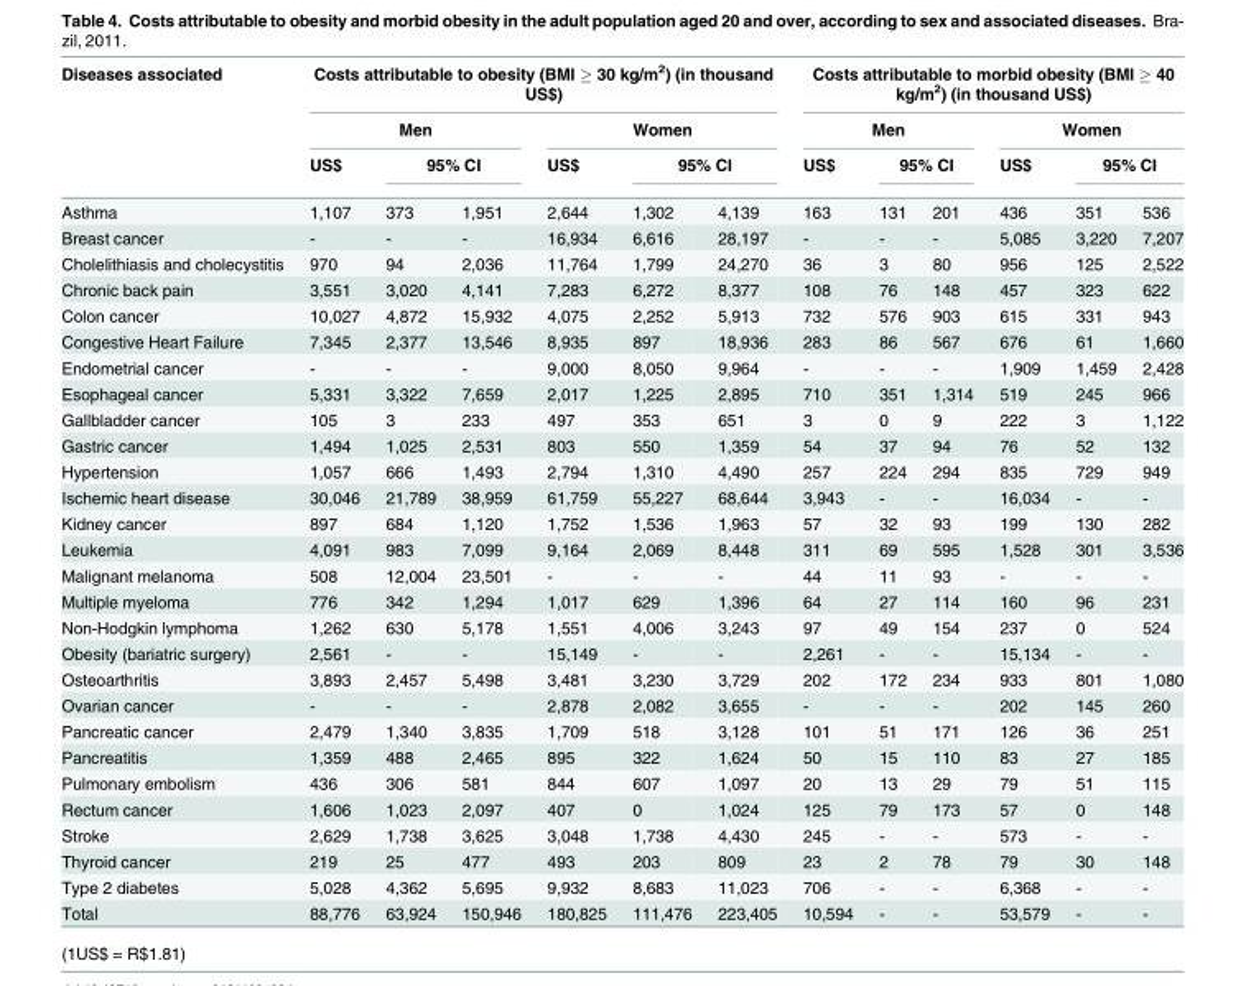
<table><thead><tr><td rowspan="4">Diseases associated Asthma</td><td colspan="6">Costs attributable to obesity (BMI ≥ 30 kg/m<sup>2</sup>) (in thousand US$)</td><td colspan="6">Costs attributable to morbid obesity (BMI ≥ 40 kg/m<sup>2</sup>) (in thousand US$)</td></tr><tr><td colspan="3">Men</td><td colspan="3">Women</td><td colspan="3">Men</td><td colspan="3">Women</td></tr><tr><td rowspan="2">US$ 1,107</td><td colspan="2">95% CI</td><td rowspan="2">US$ 2,644</td><td colspan="2">95% CI</td><td rowspan="2">US$ 163</td><td colspan="2">95% CI</td><td rowspan="2">US$ 436</td><td colspan="2">95% CI</td></tr><tr><td>373</td><td>1,951</td><td>1,302</td><td>4,139</td><td>131</td><td>201</td><td>351</td><td>536</td></tr></thead><tbody><tr><td>Breast cancer</td><td>-</td><td>-</td><td>-</td><td>16,934</td><td>6,616</td><td>28,197</td><td>-</td><td>-</td><td>-</td><td>5,085</td><td>3,220</td><td>7,207</td></tr><tr><td>Cholelithiasis and cholecystitis</td><td>970</td><td>94</td><td>2,036</td><td>11,764</td><td>1,799</td><td>24,270</td><td>36</td><td>3</td><td>80</td><td>956</td><td>125</td><td>2,522</td></tr><tr><td>Chronic back pain</td><td>3,551</td><td>3,020</td><td>4,141</td><td>7,283</td><td>6,272</td><td>8,377</td><td>108</td><td>76</td><td>148</td><td>457</td><td>323</td><td>622</td></tr><tr><td>Colon cancer</td><td>10,027</td><td>4,872</td><td>15,932</td><td>4,075</td><td>2,252</td><td>5,913</td><td>732</td><td>576</td><td>903</td><td>615</td><td>331</td><td>943</td></tr><tr><td>Congestive Heart Failure</td><td>7,345</td><td>2,377</td><td>13,546</td><td>8,935</td><td>897</td><td>18,936</td><td>283</td><td>86</td><td>567</td><td>676</td><td>61</td><td>1,660</td></tr><tr><td>Endometrial cancer</td><td>-</td><td>-</td><td>-</td><td>9,000</td><td>8,050</td><td>9,964</td><td>-</td><td>-</td><td>-</td><td>1,909</td><td>1,459</td><td>2,428</td></tr><tr><td>Esophageal cancer</td><td>5,331</td><td>3,322</td><td>7,659</td><td>2,017</td><td>1,225</td><td>2,895</td><td>710</td><td>351</td><td>1,314</td><td>519</td><td>245</td><td>966</td></tr><tr><td>Gallbladder cancer</td><td>105</td><td>3</td><td>233</td><td>497</td><td>353</td><td>651</td><td>3</td><td>0</td><td>9</td><td>222</td><td>3</td><td>1,122</td></tr><tr><td>Gastric cancer</td><td>1,494</td><td>1,025</td><td>2,531</td><td>803</td><td>550</td><td>1,359</td><td>54</td><td>37</td><td>94</td><td>76</td><td>52</td><td>132</td></tr><tr><td>Hypertension</td><td>1,057</td><td>666</td><td>1,493</td><td>2,794</td><td>1,310</td><td>4,490</td><td>257</td><td>224</td><td>294</td><td>835</td><td>729</td><td>949</td></tr><tr><td>Ischemic heart disease</td><td>30,046</td><td>21,789</td><td>38,959</td><td>61,759</td><td>55,227</td><td>68,644</td><td>3,943</td><td>-</td><td>-</td><td>16,034</td><td>-</td><td>-</td></tr><tr><td>Kidney cancer</td><td>897</td><td>684</td><td>1,120</td><td>1,752</td><td>1,536</td><td>1,963</td><td>57</td><td>32</td><td>93</td><td>199</td><td>130</td><td>282</td></tr><tr><td>Leukemia</td><td>4,091</td><td>983</td><td>7,099</td><td>9,164</td><td>2,069</td><td>8,448</td><td>311</td><td>69</td><td>595</td><td>1,528</td><td>301</td><td>3,536</td></tr><tr><td>Malignant melanoma</td><td>508</td><td>12,004</td><td>23,501</td><td>-</td><td>-</td><td>-</td><td>44</td><td>11</td><td>93</td><td>-</td><td>-</td><td>-</td></tr><tr><td>Multiple myeloma</td><td>776</td><td>342</td><td>1,294</td><td>1,017</td><td>629</td><td>1,396</td><td>64</td><td>27</td><td>114</td><td>160</td><td>96</td><td>231</td></tr><tr><td>Non-Hodgkin lymphoma</td><td>1,262</td><td>630</td><td>5,178</td><td>1,551</td><td>4,006</td><td>3,243</td><td>97</td><td>49</td><td>154</td><td>237</td><td>0</td><td>524</td></tr><tr><td>Obesity (bariatric surgery)</td><td>2,561</td><td>-</td><td>-</td><td>15,149</td><td>-</td><td>-</td><td>2,261</td><td>-</td><td>-</td><td>15,134</td><td>-</td><td>-</td></tr><tr><td>Osteoarthritis</td><td>3,893</td><td>2,457</td><td>5,498</td><td>3,481</td><td>3,230</td><td>3,729</td><td>202</td><td>172</td><td>234</td><td>933</td><td>801</td><td>1,080</td></tr><tr><td>Ovarian cancer</td><td>-</td><td>-</td><td>-</td><td>2,878</td><td>2,082</td><td>3,655</td><td>-</td><td>-</td><td>-</td><td>202</td><td>145</td><td>260</td></tr><tr><td>Pancreatic cancer</td><td>2,479</td><td>1,340</td><td>3,835</td><td>1,709</td><td>518</td><td>3,128</td><td>101</td><td>51</td><td>171</td><td>126</td><td>36</td><td>251</td></tr><tr><td>Pancreatitis</td><td>1,359</td><td>488</td><td>2,465</td><td>895</td><td>322</td><td>1,624</td><td>50</td><td>15</td><td>110</td><td>83</td><td>27</td><td>185</td></tr><tr><td>Pulmonary embolism</td><td>436</td><td>306</td><td>581</td><td>844</td><td>607</td><td>1,097</td><td>20</td><td>13</td><td>29</td><td>79</td><td>51</td><td>115</td></tr><tr><td>Rectum cancer</td><td>1,606</td><td>1,023</td><td>2,097</td><td>407</td><td>0</td><td>1,024</td><td>125</td><td>79</td><td>173</td><td>57</td><td>0</td><td>148</td></tr><tr><td>Stroke</td><td>2,629</td><td>1,738</td><td>3,625</td><td>3,048</td><td>1,738</td><td>4,430</td><td>245</td><td>-</td><td>-</td><td>573</td><td>-</td><td>-</td></tr><tr><td>Thyroid cancer</td><td>219</td><td>25</td><td>477</td><td>493</td><td>203</td><td>809</td><td>23</td><td>2</td><td>78</td><td>79</td><td>30</td><td>148</td></tr><tr><td>Type 2 diabetes</td><td>5,028</td><td>4,362</td><td>5,695</td><td>9,932</td><td>8,683</td><td>11,023</td><td>706</td><td>-</td><td>-</td><td>6,368</td><td>-</td><td>-</td></tr><tr><td>Total</td><td>88,776</td><td>63,924</td><td>150,946</td><td>180,825</td><td>111,476</td><td>223,405</td><td>10,594</td><td>-</td><td>-</td><td>53,579</td><td>-</td><td>-</td></tr></tbody></table>